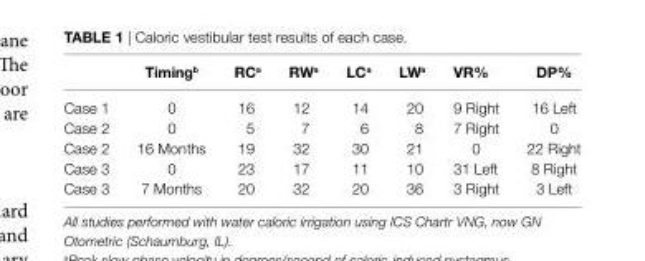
<table><thead><tr><td></td><td>timing<sup>b</sup></td><td>RC<sup>a</sup></td><td>RW<sup>a</sup></td><td>lC<sup>a</sup></td><td>lW<sup>a</sup></td><td>VR%</td><td>Dp%</td></tr></thead><tbody><tr><td>Case 1</td><td>0</td><td>16</td><td>12</td><td>14</td><td>20</td><td>9 Right</td><td>16 Left</td></tr><tr><td>Case 2</td><td>0</td><td>5</td><td>7</td><td>6</td><td>8</td><td>7 Right</td><td>0</td></tr><tr><td>Case 2</td><td>16 Months</td><td>19</td><td>32</td><td>30</td><td>21</td><td>0</td><td>22 Right</td></tr><tr><td>Case 3</td><td>0</td><td>23</td><td>17</td><td>11</td><td>10</td><td>31 Left</td><td>8 Right</td></tr><tr><td>Case 3</td><td>7 Months</td><td>20</td><td>32</td><td>20</td><td>36</td><td>3 Right</td><td>3 Left</td></tr></tbody></table>